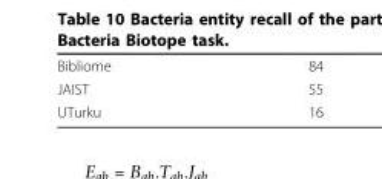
<table><tbody><tr><td>Bibliome</td><td>84</td></tr><tr><td>JAIST</td><td>55</td></tr><tr><td>UTurku</td><td>16</td></tr></tbody></table>